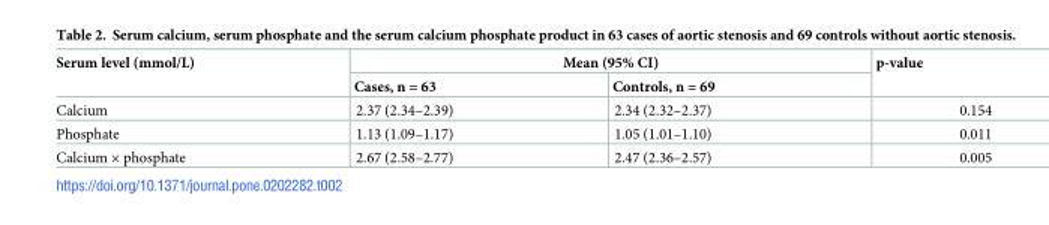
<table><thead><tr><td rowspan="2">Serum level (mmol/L)</td><td colspan="2">Mean (95% CI)</td><td rowspan="2">p-value</td></tr><tr><td>Cases, n = 63</td><td>Controls, n = 69</td></tr></thead><tbody><tr><td>Calcium</td><td>2.37 (2.34–2.39)</td><td>2.34 (2.32–2.37)</td><td>0.154</td></tr><tr><td>Phosphate</td><td>1.13 (1.09–1.17)</td><td>1.05 (1.01–1.10)</td><td>0.011</td></tr><tr><td>Calcium × phosphate</td><td>2.67 (2.58–2.77)</td><td>2.47 (2.36–2.57)</td><td>0.005</td></tr></tbody></table>